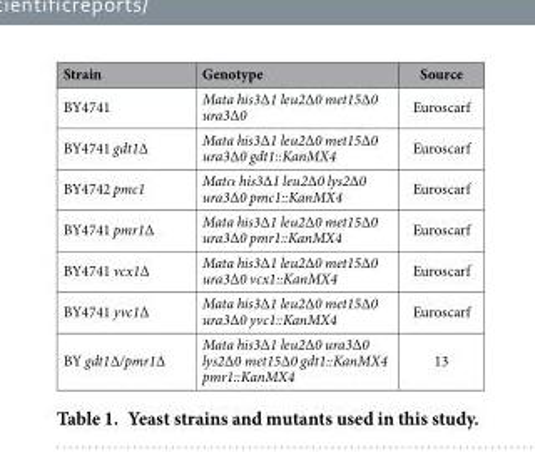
<table><thead><tr><td>Strain</td><td>Genotype</td><td>Source</td></tr></thead><tbody><tr><td>BY4741</td><td>Mata his3Δ1 leu2Δ0 met15Δ0 ura3Δ0</td><td>Euroscarf</td></tr><tr><td>BY4741 gdt1Δ</td><td>Mata his3Δ1 leu2Δ0 met15Δ0 ura3Δ0 gdt1::KanMX4</td><td>Euroscarf</td></tr><tr><td>BY4742 pmc1</td><td>Matα his3Δ1 leu2Δ0 lys2Δ0 ura3Δ0 pmc1::KanMX4</td><td>Euroscarf</td></tr><tr><td>BY4741 pmr1Δ</td><td>Mata his3Δ1 leu2Δ0 met15Δ0 ura3Δ0 pmr1::KanMX4</td><td>Euroscarf</td></tr><tr><td>BY4741 vcx1Δ</td><td>Mata his3Δ1 leu2Δ0 met15Δ0 ura3Δ0 vcx1::KanMX4</td><td>Euroscarf</td></tr><tr><td>BY4741 yvc1Δ</td><td>Mata his3Δ1 leu2Δ0 met15Δ0 ura3Δ0 yvc1::KanMX4</td><td>Euroscarf</td></tr><tr><td>BY gdt1Δ/pmr1Δ</td><td>Mata his3Δ1 leu2Δ0 ura3Δ0 lys2Δ0 met15Δ0 gdt1::KanMX4 pmr1::KanMX4</td><td>13</td></tr></tbody></table>